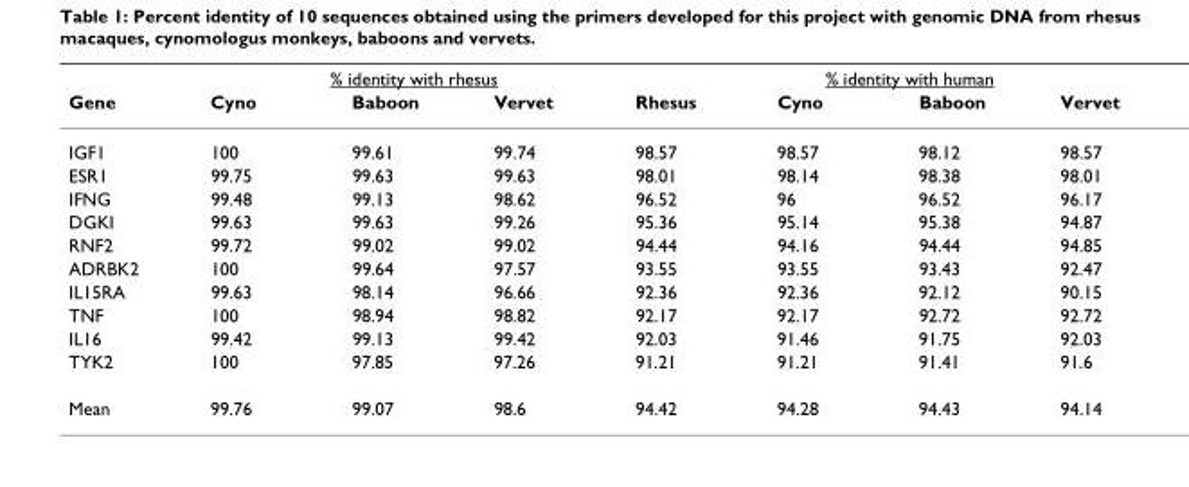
<table><thead><tr><td rowspan="2">Gene</td><td colspan="3">% identity with rhesus</td><td colspan="4">% identity with human</td></tr><tr><td>Cyno</td><td>Baboon</td><td>Vervet</td><td>Rhesus</td><td>Cyno</td><td>Baboon</td><td>Vervet</td></tr></thead><tbody><tr><td>IGF1</td><td>100</td><td>99.61</td><td>99.74</td><td>98.57</td><td>98.57</td><td>98.12</td><td>98.57</td></tr><tr><td>ESR1</td><td>99.75</td><td>99.63</td><td>99.63</td><td>98.01</td><td>98.14</td><td>98.38</td><td>98.01</td></tr><tr><td>IFNG</td><td>99.48</td><td>99.13</td><td>98.62</td><td>96.52</td><td>96</td><td>96.52</td><td>96.17</td></tr><tr><td>DGKI</td><td>99.63</td><td>99.63</td><td>99.26</td><td>95.36</td><td>95.14</td><td>95.38</td><td>94.87</td></tr><tr><td>RNF2</td><td>99.72</td><td>99.02</td><td>99.02</td><td>94.44</td><td>94.16</td><td>94.44</td><td>94.85</td></tr><tr><td>ADRBK2</td><td>100</td><td>99.64</td><td>97.57</td><td>93.55</td><td>93.55</td><td>93.43</td><td>92.47</td></tr><tr><td>IL15RA</td><td>99.63</td><td>98.14</td><td>96.66</td><td>92.36</td><td>92.36</td><td>92.12</td><td>90.15</td></tr><tr><td>TNF</td><td>100</td><td>98.94</td><td>98.82</td><td>92.17</td><td>92.17</td><td>92.72</td><td>92.72</td></tr><tr><td>IL16</td><td>99.42</td><td>99.13</td><td>99.42</td><td>92.03</td><td>91.46</td><td>91.75</td><td>92.03</td></tr><tr><td>TYK2</td><td>100</td><td>97.85</td><td>97.26</td><td>91.21</td><td>91.21</td><td>91.41</td><td>91.6</td></tr><tr><td>Mean</td><td>99.76</td><td>99.07</td><td>98.6</td><td>94.42</td><td>94.28</td><td>94.43</td><td>94.14</td></tr></tbody></table>